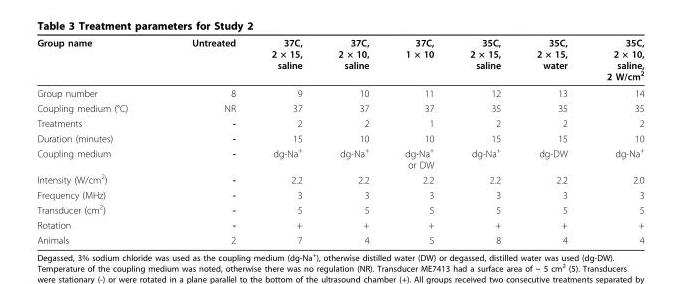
<table><thead><tr><td>Group name</td><td>Untreated</td><td>37C, 2 × 15, saline</td><td>37C, 2 × 10, saline</td><td>37C, 1 × 10</td><td>35C, 2 × 15, saline</td><td>35C, 2 × 15, water</td><td>35C, 2 × 10, saline, 2 W/cm<sup>2</sup></td></tr></thead><tbody><tr><td>Group number</td><td>8</td><td>9</td><td>10</td><td>11</td><td>12</td><td>13</td><td>14</td></tr><tr><td>Coupling medium (°C)</td><td>NR</td><td>37</td><td>37</td><td>37</td><td>35</td><td>35</td><td>35</td></tr><tr><td>Treatments</td><td>-</td><td>2</td><td>2</td><td>1</td><td>2</td><td>2</td><td>2</td></tr><tr><td>Duration (minutes)</td><td>-</td><td>15</td><td>10</td><td>10</td><td>15</td><td>15</td><td>10</td></tr><tr><td>Coupling medium</td><td>-</td><td>dg-Na<sup>+</sup></td><td>dg-Na<sup>+</sup></td><td>dg-Na<sup>+</sup> or DW</td><td>dg-Na<sup>+</sup></td><td>dg-DW</td><td>dg-Na<sup>+</sup></td></tr><tr><td>Intensity (W/cm<sup>2</sup>)</td><td>-</td><td>2.2</td><td>2.2</td><td>2.2</td><td>2.2</td><td>2.2</td><td>2.0</td></tr><tr><td>Frequency (MHz)</td><td>-</td><td>3</td><td>3</td><td>3</td><td>3</td><td>3</td><td>3</td></tr><tr><td>Transducer (cm<sup>2</sup>)</td><td>-</td><td>5</td><td>5</td><td>5</td><td>5</td><td>5</td><td>5</td></tr><tr><td>Rotation</td><td>-</td><td>+</td><td>+</td><td>+</td><td>+</td><td>+</td><td>+</td></tr><tr><td>Animals</td><td>2</td><td>7</td><td>4</td><td>5</td><td>8</td><td>4</td><td>4</td></tr></tbody></table>